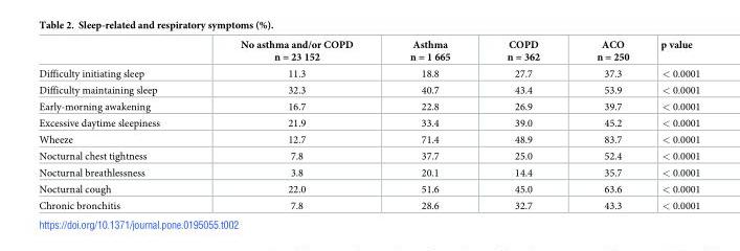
<table><thead><tr><td></td><td>No asthma and/or COPD n = 23 152</td><td>Asthma n = 1 665</td><td>COPD n = 362</td><td>ACO n = 250</td><td>p value</td></tr></thead><tbody><tr><td>Difficulty initiating sleep</td><td>11.3</td><td>18.8</td><td>27.7</td><td>37.3</td><td>&lt; 0.0001</td></tr><tr><td>Difficulty maintaining sleep</td><td>32.3</td><td>40.7</td><td>43.4</td><td>53.9</td><td>&lt; 0.0001</td></tr><tr><td>Early-morning awakening</td><td>16.7</td><td>22.8</td><td>26.9</td><td>39.7</td><td>&lt; 0.0001</td></tr><tr><td>Excessive daytime sleepiness</td><td>21.9</td><td>33.4</td><td>39.0</td><td>45.2</td><td>&lt; 0.0001</td></tr><tr><td>Wheeze</td><td>12.7</td><td>71.4</td><td>48.9</td><td>83.7</td><td>&lt; 0.0001</td></tr><tr><td>Nocturnal chest tightness</td><td>7.8</td><td>37.7</td><td>25.0</td><td>52.4</td><td>&lt; 0.0001</td></tr><tr><td>Nocturnal breathlessness</td><td>3.8</td><td>20.1</td><td>14.4</td><td>35.7</td><td>&lt; 0.0001</td></tr><tr><td>Nocturnal cough</td><td>22.0</td><td>51.6</td><td>45.0</td><td>63.6</td><td>&lt; 0.0001</td></tr><tr><td>Chronic bronchitis</td><td>7.8</td><td>28.6</td><td>32.7</td><td>43.3</td><td>&lt; 0.0001</td></tr></tbody></table>